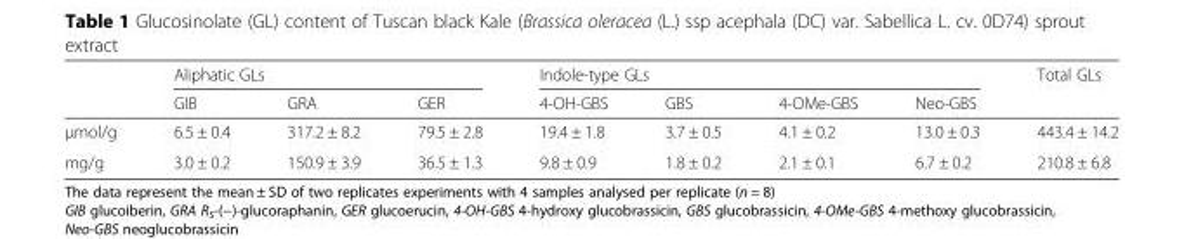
<table><thead><tr><td rowspan="2"></td><td colspan="3">Aliphatic GLs</td><td colspan="4">Indole-type GLs</td><td rowspan="2">Total GLs</td></tr><tr><td>GIB</td><td>GRA</td><td>GER</td><td>4-OH-GBS</td><td>GBS</td><td>4-OMe-GBS</td><td>Neo-GBS</td></tr></thead><tbody><tr><td>μmol/g</td><td>6.5 ± 0.4</td><td>317.2 ± 8.2</td><td>79.5 ± 2.8</td><td>19.4 ± 1.8</td><td>3.7 ± 0.5</td><td>4.1 ± 0.2</td><td>13.0 ± 0.3</td><td>443.4 ± 14.2</td></tr><tr><td>mg/g</td><td>3.0 ± 0.2</td><td>150.9 ± 3.9</td><td>36.5 ± 1.3</td><td>9.8 ± 0.9</td><td>1.8 ± 0.2</td><td>2.1 ± 0.1</td><td>6.7 ± 0.2</td><td>210.8 ± 6.8</td></tr></tbody></table>